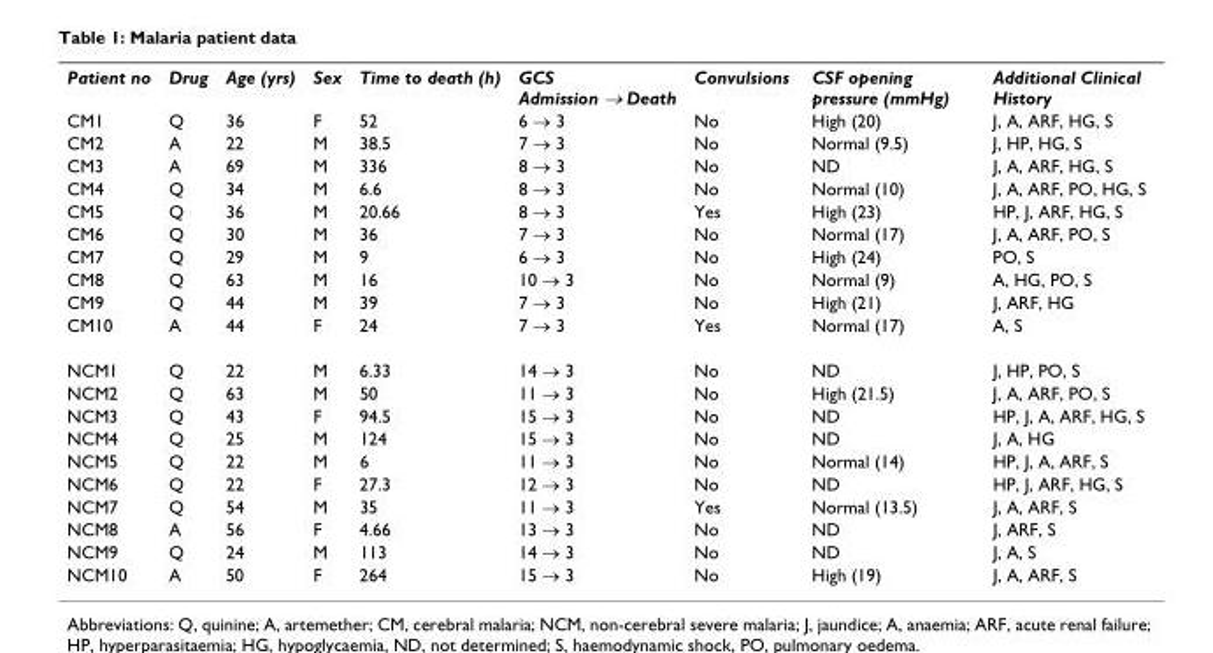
<table><tbody><tr><td>Patient no</td><td>Drug</td><td>Age (yrs)</td><td>Sex</td><td>Time to death (h)</td><td>GCS Admission → Death</td><td>Convulsions</td><td>CSF opening pressure (mmHg)</td><td>Additional Clinical History</td></tr><tr><td>CM1</td><td>Q</td><td>36</td><td>F</td><td>52</td><td>6 → 3</td><td>No</td><td>High (20)</td><td>J, A, ARF, HG, S</td></tr><tr><td>CM2</td><td>A</td><td>22</td><td>M</td><td>38.5</td><td>7 → 3</td><td>No</td><td>Normal (9.5)</td><td>J, HP, HG, S</td></tr><tr><td>CM3</td><td>A</td><td>69</td><td>M</td><td>336</td><td>8 → 3</td><td>No</td><td>ND</td><td>J, A, ARF, HG, S</td></tr><tr><td>CM4</td><td>Q</td><td>34</td><td>M</td><td>6.6</td><td>8 → 3</td><td>No</td><td>Normal (10)</td><td>J, A, ARF, PO, HG, S</td></tr><tr><td>CM5</td><td>Q</td><td>36</td><td>M</td><td>20.66</td><td>8 → 3</td><td>Yes</td><td>High (23)</td><td>HP, J, ARF, HG, S</td></tr><tr><td>CM6</td><td>Q</td><td>30</td><td>M</td><td>36</td><td>7 → 3</td><td>No</td><td>Normal (17)</td><td>J, A, ARF, PO, S</td></tr><tr><td>CM7</td><td>Q</td><td>29</td><td>M</td><td>9</td><td>6 → 3</td><td>No</td><td>High (24)</td><td>PO, S</td></tr><tr><td>CM8</td><td>Q</td><td>63</td><td>M</td><td>16</td><td>10 → 3</td><td>No</td><td>Normal (9)</td><td>A, HG, PO, S</td></tr><tr><td>CM9</td><td>Q</td><td>44</td><td>M</td><td>39</td><td>7 → 3</td><td>No</td><td>High (21)</td><td>J, ARF, HG</td></tr><tr><td>CM10</td><td>A</td><td>44</td><td>F</td><td>24</td><td>7 → 3</td><td>Yes</td><td>Normal (17)</td><td>A, S</td></tr><tr><td>NCM1</td><td>Q</td><td>22</td><td>M</td><td>6.33</td><td>14 → 3</td><td>No</td><td>ND</td><td>J, HP, PO, S</td></tr><tr><td>NCM2</td><td>Q</td><td>63</td><td>M</td><td>50</td><td>11 → 3</td><td>No</td><td>High (21.5)</td><td>J, A, ARF, PO, S</td></tr><tr><td>NCM3</td><td>Q</td><td>43</td><td>F</td><td>94.5</td><td>15 → 3</td><td>No</td><td>ND</td><td>HP, J, A, ARF, HG, S</td></tr><tr><td>NCM4</td><td>Q</td><td>25</td><td>M</td><td>124</td><td>15 → 3</td><td>No</td><td>ND</td><td>J, A, HG</td></tr><tr><td>NCM5</td><td>Q</td><td>22</td><td>M</td><td>6</td><td>11 → 3</td><td>No</td><td>Normal (14)</td><td>HP, J, A, ARF, S</td></tr><tr><td>NCM6</td><td>Q</td><td>22</td><td>F</td><td>27.3</td><td>12 → 3</td><td>No</td><td>ND</td><td>HP, J, ARF, HG, S</td></tr><tr><td>NCM7</td><td>Q</td><td>54</td><td>M</td><td>35</td><td>11 → 3</td><td>Yes</td><td>Normal (13.5)</td><td>J, A, ARF, S</td></tr><tr><td>NCM8</td><td>A</td><td>56</td><td>F</td><td>4.66</td><td>13 → 3</td><td>No</td><td>ND</td><td>J, ARF, S</td></tr><tr><td>NCM9</td><td>Q</td><td>24</td><td>M</td><td>113</td><td>14 → 3</td><td>No</td><td>ND</td><td>J, A, S</td></tr><tr><td>NCM10</td><td>A</td><td>50</td><td>F</td><td>264</td><td>15 → 3</td><td>No</td><td>High (19)</td><td>J, A, ARF, S</td></tr></tbody></table>